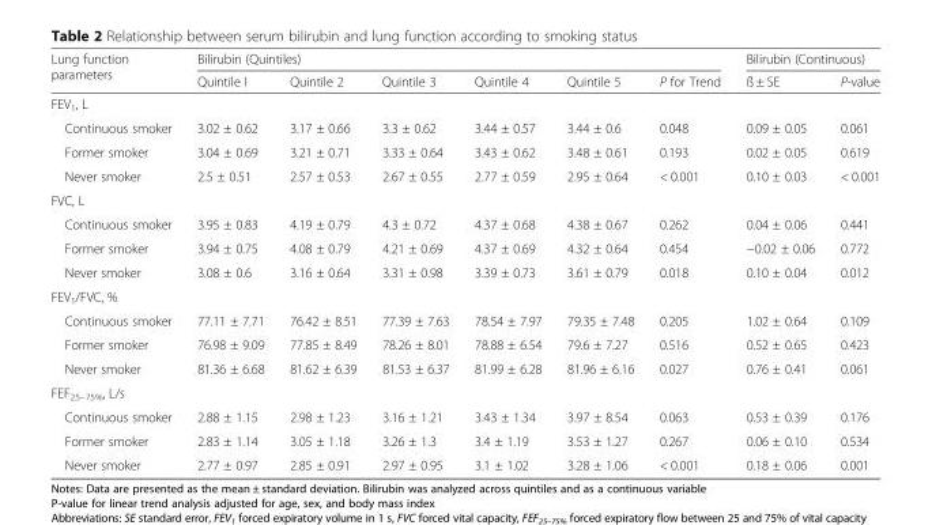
<table><thead><tr><td rowspan="2">Lung function parameters</td><td colspan="6">Bilirubin (Quintiles)</td><td colspan="2">Bilirubin (Continuous)</td></tr><tr><td>Quintile I</td><td>Quintile 2</td><td>Quintile 3</td><td>Quintile 4</td><td>Quintile 5</td><td>P for Trend</td><td>ß ± SE</td><td>P-value</td></tr></thead><tbody><tr><td colspan="9">FEV<sub>1</sub>, L</td></tr><tr><td>Continuous smoker</td><td>3.02 ± 0.62</td><td>3.17 ± 0.66</td><td>3.3 ± 0.62</td><td>3.44 ± 0.57</td><td>3.44 ± 0.6</td><td>0.048</td><td>0.09 ± 0.05</td><td>0.061</td></tr><tr><td>Former smoker</td><td>3.04 ± 0.69</td><td>3.21 ± 0.71</td><td>3.33 ± 0.64</td><td>3.43 ± 0.62</td><td>3.48 ± 0.61</td><td>0.193</td><td>0.02 ± 0.05</td><td>0.619</td></tr><tr><td>Never smoker</td><td>2.5 ± 0.51</td><td>2.57 ± 0.53</td><td>2.67 ± 0.55</td><td>2.77 ± 0.59</td><td>2.95 ± 0.64</td><td>&lt; 0.001</td><td>0.10 ± 0.03</td><td>&lt; 0.001</td></tr><tr><td colspan="9">FVC, L</td></tr><tr><td>Continuous smoker</td><td>3.95 ± 0.83</td><td>4.19 ± 0.79</td><td>4.3 ± 0.72</td><td>4.37 ± 0.68</td><td>4.38 ± 0.67</td><td>0.262</td><td>0.04 ± 0.06</td><td>0.441</td></tr><tr><td>Former smoker</td><td>3.94 ± 0.75</td><td>4.08 ± 0.79</td><td>4.21 ± 0.69</td><td>4.37 ± 0.69</td><td>4.32 ± 0.64</td><td>0.454</td><td>−0.02 ± 0.06</td><td>0.772</td></tr><tr><td>Never smoker</td><td>3.08 ± 0.6</td><td>3.16 ± 0.64</td><td>3.31 ± 0.98</td><td>3.39 ± 0.73</td><td>3.61 ± 0.79</td><td>0.018</td><td>0.10 ± 0.04</td><td>0.012</td></tr><tr><td colspan="9">FEV<sub>1</sub>/FVC, %</td></tr><tr><td>Continuous smoker</td><td>77.11 ± 7.71</td><td>76.42 ± 8.51</td><td>77.39 ± 7.63</td><td>78.54 ± 7.97</td><td>79.35 ± 7.48</td><td>0.205</td><td>1.02 ± 0.64</td><td>0.109</td></tr><tr><td>Former smoker</td><td>76.98 ± 9.09</td><td>77.85 ± 8.49</td><td>78.26 ± 8.01</td><td>78.88 ± 6.54</td><td>79.6 ± 7.27</td><td>0.516</td><td>0.52 ± 0.65</td><td>0.423</td></tr><tr><td>Never smoker</td><td>81.36 ± 6.68</td><td>81.62 ± 6.39</td><td>81.53 ± 6.37</td><td>81.99 ± 6.28</td><td>81.96 ± 6.16</td><td>0.027</td><td>0.76 ± 0.41</td><td>0.061</td></tr><tr><td colspan="9">FEF<sub>25–75%</sub>, L/s</td></tr><tr><td>Continuous smoker</td><td>2.88 ± 1.15</td><td>2.98 ± 1.23</td><td>3.16 ± 1.21</td><td>3.43 ± 1.34</td><td>3.97 ± 8.54</td><td>0.063</td><td>0.53 ± 0.39</td><td>0.176</td></tr><tr><td>Former smoker</td><td>2.83 ± 1.14</td><td>3.05 ± 1.18</td><td>3.26 ± 1.3</td><td>3.4 ± 1.19</td><td>3.53 ± 1.27</td><td>0.267</td><td>0.06 ± 0.10</td><td>0.534</td></tr><tr><td>Never smoker</td><td>2.77 ± 0.97</td><td>2.85 ± 0.91</td><td>2.97 ± 0.95</td><td>3.1 ± 1.02</td><td>3.28 ± 1.06</td><td>&lt; 0.001</td><td>0.18 ± 0.06</td><td>0.001</td></tr></tbody></table>